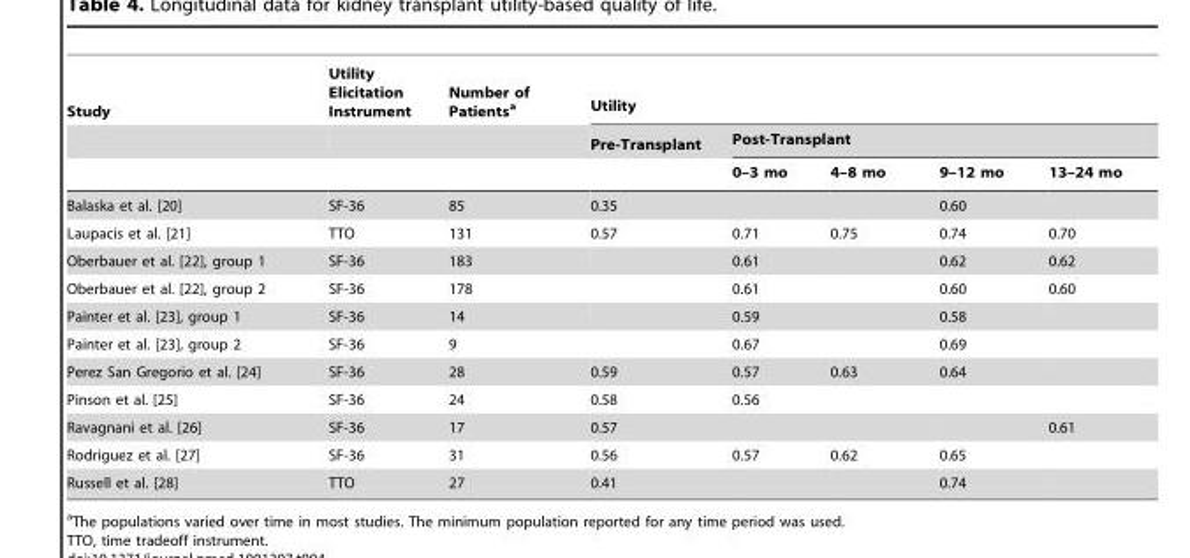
<table><thead><tr><td rowspan="3">Study</td><td rowspan="3">Utility Elicitation Instrument</td><td rowspan="3">Number of Patients<sup>a</sup></td><td colspan="5">Utility</td></tr><tr><td rowspan="2">Pre-Transplant</td><td colspan="4">Post-Transplant</td></tr><tr><td>0–3 mo</td><td>4–8 mo</td><td>9–12 mo</td><td>13–24 mo</td></tr></thead><tbody><tr><td>Balaska et al. [20]</td><td>SF-36</td><td>85</td><td>0.35</td><td></td><td></td><td>0.60</td><td></td></tr><tr><td>Laupacis et al. [21]</td><td>TTO</td><td>131</td><td>0.57</td><td>0.71</td><td>0.75</td><td>0.74</td><td>0.70</td></tr><tr><td>Oberbauer et al. [22], group 1</td><td>SF-36</td><td>183</td><td></td><td>0.61</td><td></td><td>0.62</td><td>0.62</td></tr><tr><td>Oberbauer et al. [22], group 2</td><td>SF-36</td><td>178</td><td></td><td>0.61</td><td></td><td>0.60</td><td>0.60</td></tr><tr><td>Painter et al. [23], group 1</td><td>SF-36</td><td>14</td><td></td><td>0.59</td><td></td><td>0.58</td><td></td></tr><tr><td>Painter et al. [23], group 2</td><td>SF-36</td><td>9</td><td></td><td>0.67</td><td></td><td>0.69</td><td></td></tr><tr><td>Perez San Gregorio et al. [24]</td><td>SF-36</td><td>28</td><td>0.59</td><td>0.57</td><td>0.63</td><td>0.64</td><td></td></tr><tr><td>Pinson et al. [25]</td><td>SF-36</td><td>24</td><td>0.58</td><td>0.56</td><td></td><td></td><td></td></tr><tr><td>Ravagnani et al. [26]</td><td>SF-36</td><td>17</td><td>0.57</td><td></td><td></td><td></td><td>0.61</td></tr><tr><td>Rodriguez et al. [27]</td><td>SF-36</td><td>31</td><td>0.56</td><td>0.57</td><td>0.62</td><td>0.65</td><td></td></tr><tr><td>Russell et al. [28]</td><td>TTO</td><td>27</td><td>0.41</td><td></td><td></td><td>0.74</td><td></td></tr></tbody></table>